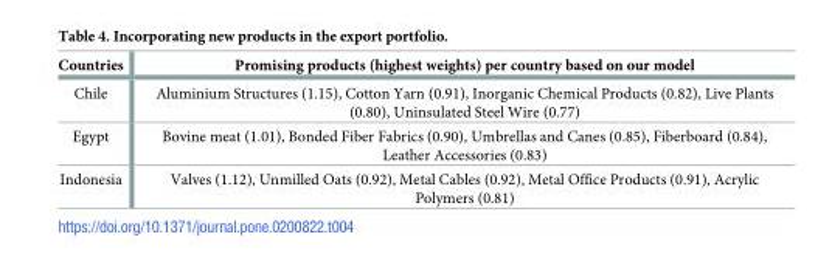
<table><thead><tr><td>Countries</td><td>Promising products (highest weights) per country based on our model</td></tr></thead><tbody><tr><td>Chile</td><td>Aluminium Structures (1.15), Cotton Yarn (0.91), Inorganic Chemical Products (0.82), Live Plants (0.80), Uninsulated Steel Wire (0.77)</td></tr><tr><td>Egypt</td><td>Bovine meat (1.01), Bonded Fiber Fabrics (0.90), Umbrellas and Canes (0.85), Fiberboard (0.84), Leather Accessories (0.83)</td></tr><tr><td>Indonesia</td><td>Valves (1.12), Unmilled Oats (0.92), Metal Cables (0.92), Metal Office Products (0.91), Acrylic Polymers (0.81)</td></tr></tbody></table>